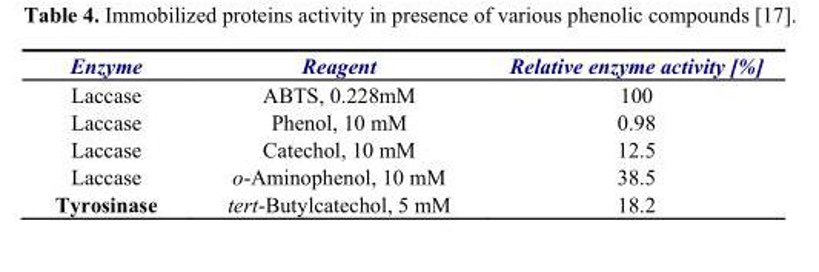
<table><thead><tr><td>Enzyme</td><td>Reagent</td><td>Relative enzyme activity [%]</td></tr></thead><tbody><tr><td>Laccase</td><td>ABTS, 0.228mM</td><td>100</td></tr><tr><td>Laccase</td><td>Phenol, 10 mM</td><td>0.98</td></tr><tr><td>Laccase</td><td>Catechol, 10 mM</td><td>12.5</td></tr><tr><td>Laccase</td><td>o-Aminophenol, 10 mM</td><td>38.5</td></tr><tr><td>Tyrosinase</td><td>tert-Butylcatechol, 5 mM</td><td>18.2</td></tr></tbody></table>